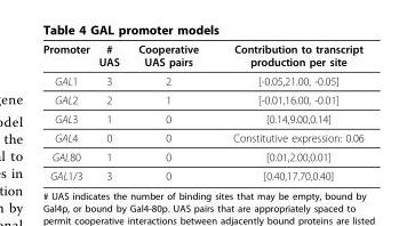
<table><thead><tr><td>Promoter</td><td># UAS</td><td>Cooperative UAS pairs</td><td>Contribution to transcript production per site</td></tr></thead><tbody><tr><td>GAL1</td><td>3</td><td>2</td><td>[-0.05,21.00, -0.05]</td></tr><tr><td>GAL2</td><td>2</td><td>1</td><td>[-0.01,16.00, -0.01]</td></tr><tr><td>GAL3</td><td>1</td><td>0</td><td>[0.14,9.00,0.14]</td></tr><tr><td>GAL4</td><td>0</td><td>0</td><td>Constitutive expression: 0.06</td></tr><tr><td>GAL80</td><td>1</td><td>0</td><td>[0.01,2.00,0.01]</td></tr><tr><td>GAL1/3</td><td>3</td><td>0</td><td>[0.40,17.70,0.40]</td></tr></tbody></table>